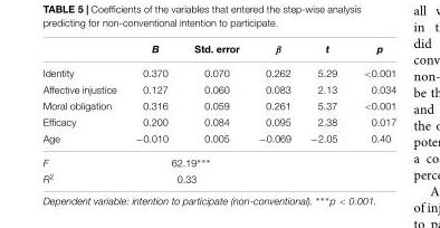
<table><thead><tr><td></td><td>B</td><td>Std. error</td><td>β</td><td>t</td><td>p</td></tr></thead><tbody><tr><td>Identity</td><td>0.370</td><td>0.070</td><td>0.262</td><td>5.29</td><td>&lt;0.001</td></tr><tr><td>Affective injustice</td><td>0.127</td><td>0.060</td><td>0.083</td><td>2.13</td><td>0.034</td></tr><tr><td>Moral obligation</td><td>0.316</td><td>0.059</td><td>0.261</td><td>5.37</td><td>&lt;0.001</td></tr><tr><td>Efficacy</td><td>0.200</td><td>0.084</td><td>0.095</td><td>2.38</td><td>0.017</td></tr><tr><td>Age</td><td>−0.010</td><td>0.005</td><td>−0.069</td><td>−2.05</td><td>0.40</td></tr><tr><td>F</td><td colspan="2">62.19∗∗∗</td><td colspan="3"></td></tr><tr><td>R<sup>2</sup></td><td colspan="2">0.33</td><td colspan="3"></td></tr></tbody></table>